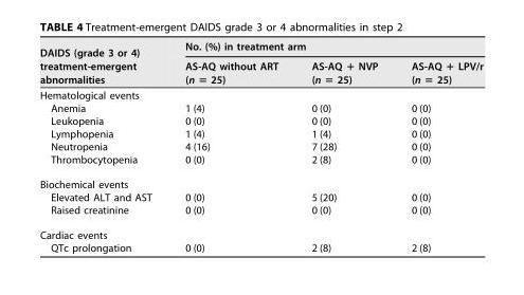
<table><thead><tr><td rowspan="2">DAIDS (grade 3 or 4) treatment-emergent abnormalities</td><td colspan="3">No. (%) in treatment arm</td></tr><tr><td>AS-AQ without ART (n = 25)</td><td>AS-AQ + NVP (n = 25)</td><td>AS-AQ + LPV/r (n = 25)</td></tr></thead><tbody><tr><td colspan="4">Hematological events</td></tr><tr><td>Anemia</td><td>1 (4)</td><td>0 (0)</td><td>0 (0)</td></tr><tr><td>Leukopenia</td><td>0 (0)</td><td>0 (0)</td><td>0 (0)</td></tr><tr><td>Lymphopenia</td><td>1 (4)</td><td>1 (4)</td><td>0 (0)</td></tr><tr><td>Neutropenia</td><td>4 (16)</td><td>7 (28)</td><td>0 (0)</td></tr><tr><td>Thrombocytopenia</td><td>0 (0)</td><td>2 (8)</td><td>0 (0)</td></tr><tr><td colspan="4">Biochemical events</td></tr><tr><td>Elevated ALT and AST</td><td>0 (0)</td><td>5 (20)</td><td>0 (0)</td></tr><tr><td>Raised creatinine</td><td>0 (0)</td><td>0 (0)</td><td>0 (0)</td></tr><tr><td colspan="4">Cardiac events</td></tr><tr><td>QTc prolongation</td><td>0 (0)</td><td>2 (8)</td><td>2 (8)</td></tr></tbody></table>